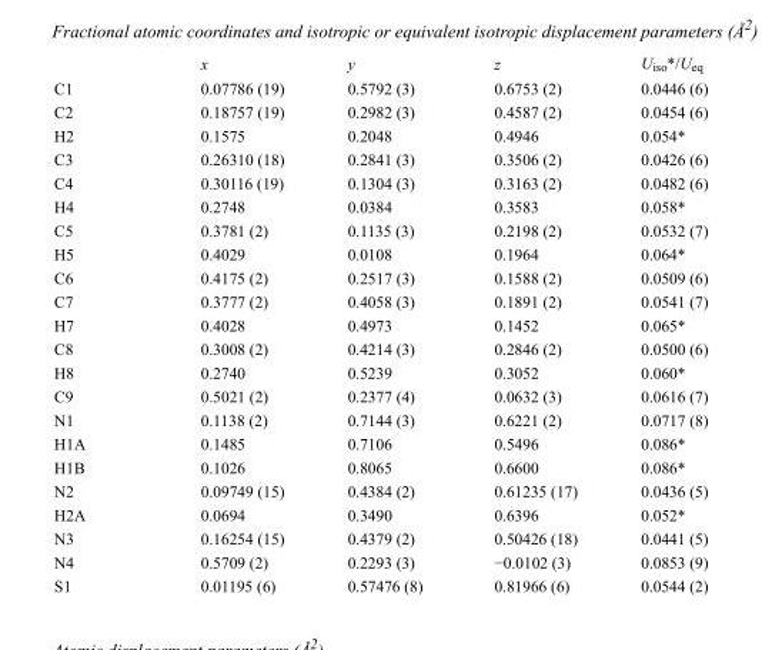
<table><thead><tr><td></td><td>x</td><td>y</td><td>z</td><td>U<sub>iso</sub>*/U<sub>eq</sub></td></tr></thead><tbody><tr><td>C1</td><td>0.07786 (19)</td><td>0.5792 (3)</td><td>0.6753 (2)</td><td>0.0446 (6)</td></tr><tr><td>C2</td><td>0.18757 (19)</td><td>0.2982 (3)</td><td>0.4587 (2)</td><td>0.0454 (6)</td></tr><tr><td>H2</td><td>0.1575</td><td>0.2048</td><td>0.4946</td><td>0.054*</td></tr><tr><td>C3</td><td>0.26310 (18)</td><td>0.2841 (3)</td><td>0.3506 (2)</td><td>0.0426 (6)</td></tr><tr><td>C4</td><td>0.30116 (19)</td><td>0.1304 (3)</td><td>0.3163 (2)</td><td>0.0482 (6)</td></tr><tr><td>H4</td><td>0.2748</td><td>0.0384</td><td>0.3583</td><td>0.058*</td></tr><tr><td>C5</td><td>0.3781 (2)</td><td>0.1135 (3)</td><td>0.2198 (2)</td><td>0.0532 (7)</td></tr><tr><td>H5</td><td>0.4029</td><td>0.0108</td><td>0.1964</td><td>0.064*</td></tr><tr><td>C6</td><td>0.4175 (2)</td><td>0.2517 (3)</td><td>0.1588 (2)</td><td>0.0509 (6)</td></tr><tr><td>C7</td><td>0.3777 (2)</td><td>0.4058 (3)</td><td>0.1891 (2)</td><td>0.0541 (7)</td></tr><tr><td>H7</td><td>0.4028</td><td>0.4973</td><td>0.1452</td><td>0.065*</td></tr><tr><td>C8</td><td>0.3008 (2)</td><td>0.4214 (3)</td><td>0.2846 (2)</td><td>0.0500 (6)</td></tr><tr><td>H8</td><td>0.2740</td><td>0.5239</td><td>0.3052</td><td>0.060*</td></tr><tr><td>C9</td><td>0.5021 (2)</td><td>0.2377 (4)</td><td>0.0632 (3)</td><td>0.0616 (7)</td></tr><tr><td>N1</td><td>0.1138 (2)</td><td>0.7144 (3)</td><td>0.6221 (2)</td><td>0.0717 (8)</td></tr><tr><td>H1A</td><td>0.1485</td><td>0.7106</td><td>0.5496</td><td>0.086*</td></tr><tr><td>H1B</td><td>0.1026</td><td>0.8065</td><td>0.6600</td><td>0.086*</td></tr><tr><td>N2</td><td>0.09749 (15)</td><td>0.4384 (2)</td><td>0.61235 (17)</td><td>0.0436 (5)</td></tr><tr><td>H2A</td><td>0.0694</td><td>0.3490</td><td>0.6396</td><td>0.052*</td></tr><tr><td>N3</td><td>0.16254 (15)</td><td>0.4379 (2)</td><td>0.50426 (18)</td><td>0.0441 (5)</td></tr><tr><td>N4</td><td>0.5709 (2)</td><td>0.2293 (3)</td><td>−0.0102 (3)</td><td>0.0853 (9)</td></tr><tr><td>S1</td><td>0.01195 (6)</td><td>0.57476 (8)</td><td>0.81966 (6)</td><td>0.0544 (2)</td></tr></tbody></table>